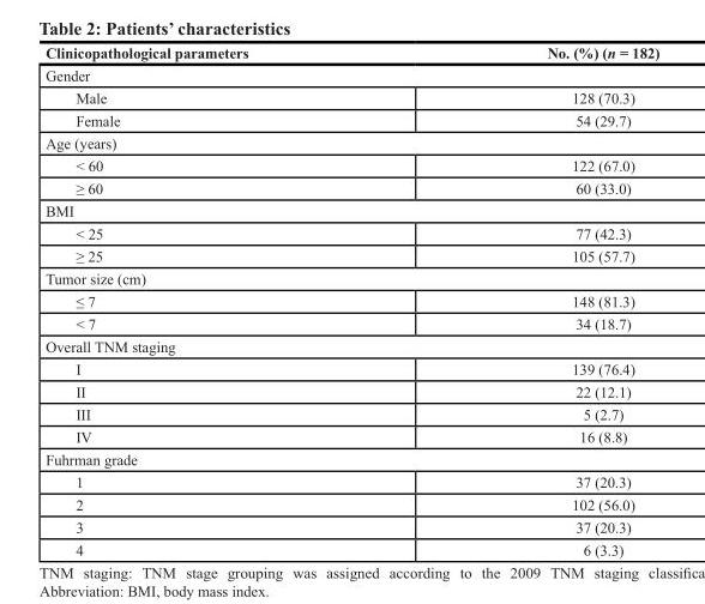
<table><thead><tr><td>Clinicopathological parameters</td><td>No. (%) (n = 182)</td></tr></thead><tbody><tr><td colspan="2">Gender</td></tr><tr><td>Male</td><td>128 (70.3)</td></tr><tr><td>Female</td><td>54 (29.7)</td></tr><tr><td colspan="2">Age (years)</td></tr><tr><td>&lt; 60</td><td>122 (67.0)</td></tr><tr><td>≥ 60</td><td>60 (33.0)</td></tr><tr><td colspan="2">BMI</td></tr><tr><td>&lt; 25</td><td>77 (42.3)</td></tr><tr><td>≥ 25</td><td>105 (57.7)</td></tr><tr><td colspan="2">Tumor size (cm)</td></tr><tr><td>≤ 7</td><td>148 (81.3)</td></tr><tr><td>&lt; 7</td><td>34 (18.7)</td></tr><tr><td colspan="2">Overall TNM staging</td></tr><tr><td>I</td><td>139 (76.4)</td></tr><tr><td>II</td><td>22 (12.1)</td></tr><tr><td>III</td><td>5 (2.7)</td></tr><tr><td>IV</td><td>16 (8.8)</td></tr><tr><td colspan="2">Fuhrman grade</td></tr><tr><td>1</td><td>37 (20.3)</td></tr><tr><td>2</td><td>102 (56.0)</td></tr><tr><td>3</td><td>37 (20.3)</td></tr><tr><td>4</td><td>6 (3.3)</td></tr></tbody></table>